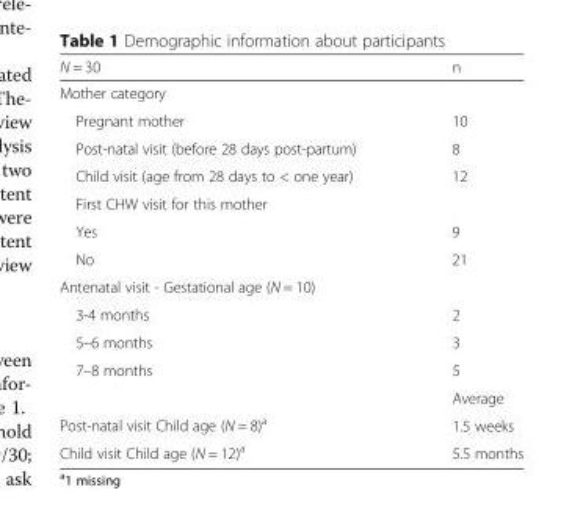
<table><thead><tr><td>N = 30</td><td>n</td></tr></thead><tbody><tr><td colspan="2">Mother category</td></tr><tr><td>Pregnant mother</td><td>10</td></tr><tr><td>Post-natal visit (before 28 days post-partum)</td><td>8</td></tr><tr><td>Child visit (age from 28 days to &lt; one year)</td><td>12</td></tr><tr><td colspan="2">First CHW visit for this mother</td></tr><tr><td>Yes</td><td>9</td></tr><tr><td>No</td><td>21</td></tr><tr><td colspan="2">Antenatal visit - Gestational age (N = 10)</td></tr><tr><td>3-4 months</td><td>2</td></tr><tr><td>5–6 months</td><td>3</td></tr><tr><td rowspan="2">7–8 months</td><td>5</td></tr><tr><td>Average</td></tr><tr><td>Post-natal visit Child age (N = 8)<sup>a</sup></td><td>1.5 weeks</td></tr><tr><td>Child visit Child age (N = 12)<sup>a</sup></td><td>5.5 months</td></tr></tbody></table>